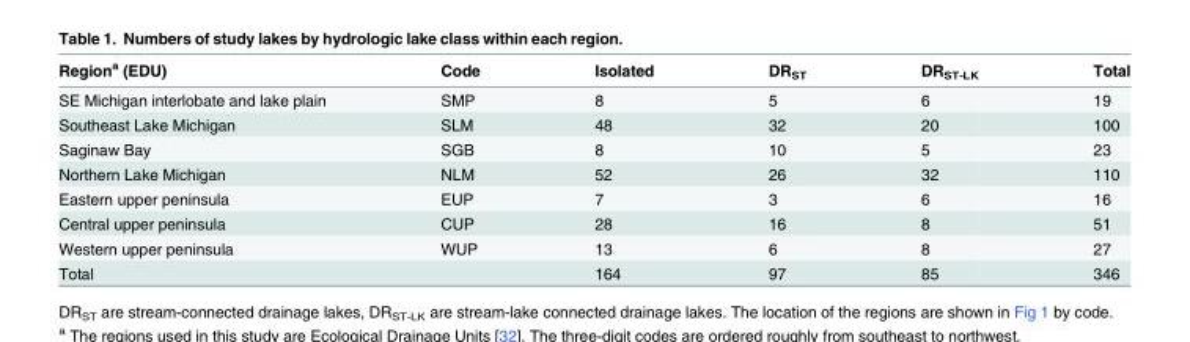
<table><thead><tr><td>Region<sup>a</sup> (EDU)</td><td>Code</td><td>Isolated</td><td>DR<sub>ST</sub></td><td>DR<sub>ST-LK</sub></td><td>Total</td></tr></thead><tbody><tr><td>SE Michigan interlobate and lake plain</td><td>SMP</td><td>8</td><td>5</td><td>6</td><td>19</td></tr><tr><td>Southeast Lake Michigan</td><td>SLM</td><td>48</td><td>32</td><td>20</td><td>100</td></tr><tr><td>Saginaw Bay</td><td>SGB</td><td>8</td><td>10</td><td>5</td><td>23</td></tr><tr><td>Northern Lake Michigan</td><td>NLM</td><td>52</td><td>26</td><td>32</td><td>110</td></tr><tr><td>Eastern upper peninsula</td><td>EUP</td><td>7</td><td>3</td><td>6</td><td>16</td></tr><tr><td>Central upper peninsula</td><td>CUP</td><td>28</td><td>16</td><td>8</td><td>51</td></tr><tr><td>Western upper peninsula</td><td>WUP</td><td>13</td><td>6</td><td>8</td><td>27</td></tr><tr><td>Total</td><td></td><td>164</td><td>97</td><td>85</td><td>346</td></tr></tbody></table>